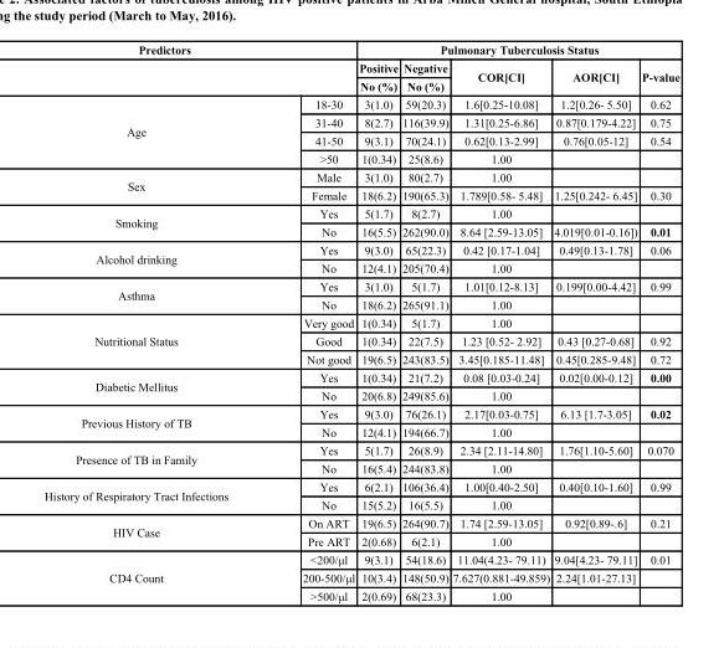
<table><thead><tr><td colspan="2">Predictors</td><td colspan="5">Pulmonary Tuberculosis Status</td></tr><tr><td rowspan="2"></td><td rowspan="2"></td><td rowspan="2">Positive No (%)</td><td rowspan="2">Negative No (%)</td><td rowspan="2">COR[CI]</td><td rowspan="2">AOR[CI]</td><td rowspan="2">P-value</td></tr><tr></tr></thead><tbody><tr><td rowspan="4">Age</td><td>18-30</td><td>3(1.0)</td><td>59(20.3)</td><td>1.6[0.25-10.08]</td><td>1.2[0.26- 5.50]</td><td>0.62</td></tr><tr><td>31-40</td><td>8(2.7)</td><td>116(39.9)</td><td>1.31[0.25-6.86]</td><td>0.87[0.179-4.22]</td><td>0.75</td></tr><tr><td>41-50</td><td>9(3.1)</td><td>70(24.1)</td><td>0.62[0.13-2.99]</td><td>0.76[0.05-12]</td><td>0.54</td></tr><tr><td>˃50</td><td>1(0.34)</td><td>25(8.6)</td><td>1.00</td><td></td><td></td></tr><tr><td rowspan="2">Sex</td><td>Male</td><td>3(1.0)</td><td>80(2.7)</td><td>1.00</td><td></td><td></td></tr><tr><td>Female</td><td>18(6.2)</td><td>190(65.3)</td><td>1.789[0.58- 5.48]</td><td>1.25[0.242- 6.45]</td><td>0.30</td></tr><tr><td rowspan="2">Smoking</td><td>Yes</td><td>5(1.7)</td><td>8(2.7)</td><td>1.00</td><td></td><td></td></tr><tr><td>No</td><td>16(5.5)</td><td>262(90.0)</td><td>8.64 [2.59-13.05]</td><td>4.019[0.01-0.16])</td><td>0.01</td></tr><tr><td rowspan="2">Alcohol drinking</td><td>Yes</td><td>9(3.0)</td><td>65(22.3)</td><td>0.42 [0.17-1.04]</td><td>0.49[0.13-1.78]</td><td>0.06</td></tr><tr><td>No</td><td>12(4.1)</td><td>205(70.4)</td><td>1.00</td><td></td><td></td></tr><tr><td rowspan="2">Asthma</td><td>Yes</td><td>3(1.0)</td><td>5(1.7)</td><td>1.01[0.12-8.13]</td><td>0.199[0.00-4.42]</td><td>0.99</td></tr><tr><td>No</td><td>18(6.2)</td><td>265(91.1)</td><td>1.00</td><td></td><td></td></tr><tr><td rowspan="3">Nutritional Status</td><td>Very good</td><td>1(0.34)</td><td>5(1.7)</td><td>1.00</td><td></td><td></td></tr><tr><td>Good</td><td>1(0.34)</td><td>22(7.5)</td><td>1.23 [0.52- 2.92]</td><td>0.43 [0.27-0.68]</td><td>0.92</td></tr><tr><td>Not good</td><td>19(6.5)</td><td>243(83.5)</td><td>3.45[0.185-11.48]</td><td>0.45[0.285-9.48]</td><td>0.72</td></tr><tr><td rowspan="2">Diabetic Mellitus</td><td>Yes</td><td>1(0.34)</td><td>21(7.2)</td><td>0.08 [0.03-0.24]</td><td>0.02[0.00-0.12]</td><td>0.00</td></tr><tr><td>No</td><td>20(6.8)</td><td>249(85.6)</td><td>1.00</td><td></td><td></td></tr><tr><td rowspan="2">Previous History of TB</td><td>Yes</td><td>9(3.0)</td><td>76(26.1)</td><td>2.17[0.03-0.75]</td><td>6.13 [1.7-3.05]</td><td>0.02</td></tr><tr><td>No</td><td>12(4.1)</td><td>194(66.7)</td><td>1.00</td><td></td><td></td></tr><tr><td rowspan="2">Presence of TB in Family</td><td>Yes</td><td>5(1.7)</td><td>26(8.9)</td><td>2.34 [2.11-14.80]</td><td>1.76[1.10-5.60]</td><td>0.070</td></tr><tr><td>No</td><td>16(5.4)</td><td>244(83.8)</td><td>1.00</td><td></td><td></td></tr><tr><td rowspan="2">History of Respiratory Tract Infections</td><td>Yes</td><td>6(2.1)</td><td>106(36.4)</td><td>1.00[0.40-2.50]</td><td>0.40[0.10-1.60]</td><td>0.99</td></tr><tr><td>No</td><td>15(5.2)</td><td>16(5.5)</td><td>1.00</td><td></td><td></td></tr><tr><td rowspan="2">HIV Case</td><td>On ART</td><td>19(6.5)</td><td>264(90.7)</td><td>1.74 [2.59-13.05]</td><td>0.92[0.89-.6]</td><td>0.21</td></tr><tr><td>Pre ART</td><td>2(0.68)</td><td>6(2.1)</td><td>1.00</td><td></td><td></td></tr><tr><td rowspan="3">CD4 Count</td><td>&lt;200/μl</td><td>9(3.1)</td><td>54(18.6)</td><td>11.04(4.23- 79.11)</td><td>9.04[4.23- 79.11]</td><td>0.01</td></tr><tr><td>200-500/μl</td><td>10(3.4)</td><td>148(50.9)</td><td>7.627(0.881-49.859)</td><td>2.24[1.01-27.13]</td><td></td></tr><tr><td>&gt;500/μl</td><td>2(0.69)</td><td>68(23.3)</td><td>1.00</td><td></td><td></td></tr></tbody></table>